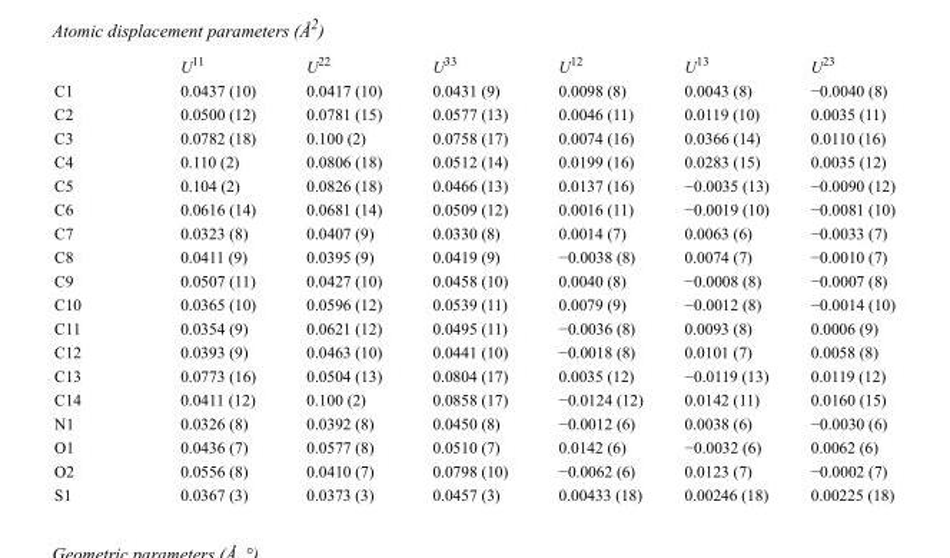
<table><thead><tr><td></td><td>U<sup>11</sup></td><td>U<sup>22</sup></td><td>U<sup>33</sup></td><td>U<sup>12</sup></td><td>U<sup>13</sup></td><td>U<sup>23</sup></td></tr></thead><tbody><tr><td>C1</td><td>0.0437 (10)</td><td>0.0417 (10)</td><td>0.0431 (9)</td><td>0.0098 (8)</td><td>0.0043 (8)</td><td>−0.0040 (8)</td></tr><tr><td>C2</td><td>0.0500 (12)</td><td>0.0781 (15)</td><td>0.0577 (13)</td><td>0.0046 (11)</td><td>0.0119 (10)</td><td>0.0035 (11)</td></tr><tr><td>C3</td><td>0.0782 (18)</td><td>0.100 (2)</td><td>0.0758 (17)</td><td>0.0074 (16)</td><td>0.0366 (14)</td><td>0.0110 (16)</td></tr><tr><td>C4</td><td>0.110 (2)</td><td>0.0806 (18)</td><td>0.0512 (14)</td><td>0.0199 (16)</td><td>0.0283 (15)</td><td>0.0035 (12)</td></tr><tr><td>C5</td><td>0.104 (2)</td><td>0.0826 (18)</td><td>0.0466 (13)</td><td>0.0137 (16)</td><td>−0.0035 (13)</td><td>−0.0090 (12)</td></tr><tr><td>C6</td><td>0.0616 (14)</td><td>0.0681 (14)</td><td>0.0509 (12)</td><td>0.0016 (11)</td><td>−0.0019 (10)</td><td>−0.0081 (10)</td></tr><tr><td>C7</td><td>0.0323 (8)</td><td>0.0407 (9)</td><td>0.0330 (8)</td><td>0.0014 (7)</td><td>0.0063 (6)</td><td>−0.0033 (7)</td></tr><tr><td>C8</td><td>0.0411 (9)</td><td>0.0395 (9)</td><td>0.0419 (9)</td><td>−0.0038 (8)</td><td>0.0074 (7)</td><td>−0.0010 (7)</td></tr><tr><td>C9</td><td>0.0507 (11)</td><td>0.0427 (10)</td><td>0.0458 (10)</td><td>0.0040 (8)</td><td>−0.0008 (8)</td><td>−0.0007 (8)</td></tr><tr><td>C10</td><td>0.0365 (10)</td><td>0.0596 (12)</td><td>0.0539 (11)</td><td>0.0079 (9)</td><td>−0.0012 (8)</td><td>−0.0014 (10)</td></tr><tr><td>C11</td><td>0.0354 (9)</td><td>0.0621 (12)</td><td>0.0495 (11)</td><td>−0.0036 (8)</td><td>0.0093 (8)</td><td>0.0006 (9)</td></tr><tr><td>C12</td><td>0.0393 (9)</td><td>0.0463 (10)</td><td>0.0441 (10)</td><td>−0.0018 (8)</td><td>0.0101 (7)</td><td>0.0058 (8)</td></tr><tr><td>C13</td><td>0.0773 (16)</td><td>0.0504 (13)</td><td>0.0804 (17)</td><td>0.0035 (12)</td><td>−0.0119 (13)</td><td>0.0119 (12)</td></tr><tr><td>C14</td><td>0.0411 (12)</td><td>0.100 (2)</td><td>0.0858 (17)</td><td>−0.0124 (12)</td><td>0.0142 (11)</td><td>0.0160 (15)</td></tr><tr><td>N1</td><td>0.0326 (8)</td><td>0.0392 (8)</td><td>0.0450 (8)</td><td>−0.0012 (6)</td><td>0.0038 (6)</td><td>−0.0030 (6)</td></tr><tr><td>O1</td><td>0.0436 (7)</td><td>0.0577 (8)</td><td>0.0510 (7)</td><td>0.0142 (6)</td><td>−0.0032 (6)</td><td>0.0062 (6)</td></tr><tr><td>O2</td><td>0.0556 (8)</td><td>0.0410 (7)</td><td>0.0798 (10)</td><td>−0.0062 (6)</td><td>0.0123 (7)</td><td>−0.0002 (7)</td></tr><tr><td>S1</td><td>0.0367 (3)</td><td>0.0373 (3)</td><td>0.0457 (3)</td><td>0.00433 (18)</td><td>0.00246 (18)</td><td>0.00225 (18)</td></tr></tbody></table>